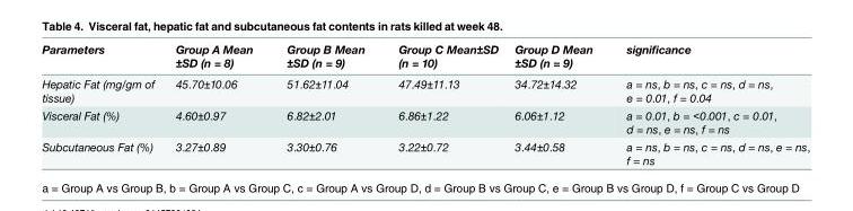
<table><thead><tr><td>Parameters</td><td>Group A Mean ±SD (n = 8)</td><td>Group B Mean ±SD (n = 9)</td><td>Group C Mean±SD (n = 10)</td><td>Group D Mean ±SD (n = 9)</td><td>significance</td></tr></thead><tbody><tr><td>Hepatic Fat (mg/gm of tissue)</td><td>45.70±10.06</td><td>51.62±11.04</td><td>47.49±11.13</td><td>34.72±14.32</td><td>a = ns, b = ns, c = ns, d = ns, e = 0.01, f = 0.04</td></tr><tr><td>Visceral Fat (%)</td><td>4.60±0.97</td><td>6.82±2.01</td><td>6.86±1.22</td><td>6.06±1.12</td><td>a = 0.01, b = &lt;0.001, c = 0.01, d = ns, e = ns, f = ns</td></tr><tr><td>Subcutaneous Fat (%)</td><td>3.27±0.89</td><td>3.30±0.76</td><td>3.22±0.72</td><td>3.44±0.58</td><td>a = ns, b = ns, c = ns, d = ns, e = ns, f = ns</td></tr></tbody></table>